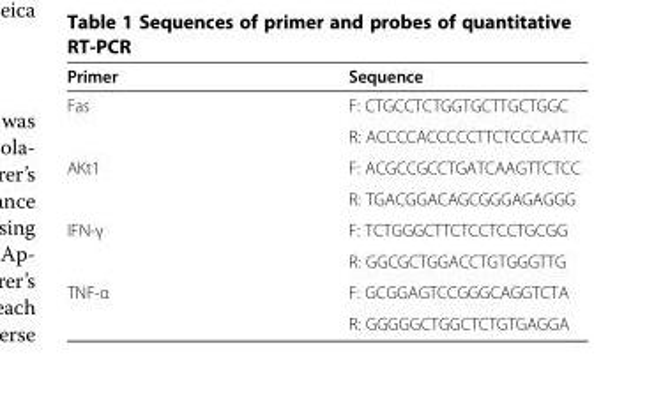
<table><thead><tr><td>Primer</td><td>Sequence</td></tr></thead><tbody><tr><td rowspan="2">Fas</td><td>F: CTGCCTCTGGTGCTTGCTGGC</td></tr><tr><td>R: ACCCCACCCCCTTCTCCCAATTC</td></tr><tr><td rowspan="2">AKt1</td><td>F: ACGCCGCCTGATCAAGTTCTCC</td></tr><tr><td>R: TGACGGACAGCGGGAGAGGG</td></tr><tr><td rowspan="2">IFN-γ</td><td>F: TCTGGGCTTCTCCTCCTGCGG</td></tr><tr><td>R: GGCGCTGGACCTGTGGGTTG</td></tr><tr><td rowspan="2">TNF-α</td><td>F: GCGGAGTCCGGGCAGGTCTA</td></tr><tr><td>R: GGGGGCTGGCTCTGTGAGGA</td></tr></tbody></table>